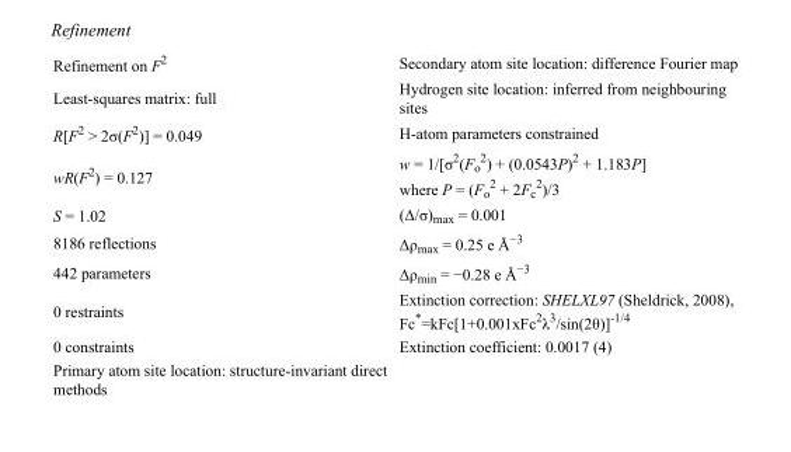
<table><tbody><tr><td>Refinement on F<sup>2</sup></td><td>Secondary atom site location: difference Fourier map</td></tr><tr><td>Least-squares matrix: full</td><td>Hydrogen site location: inferred from neighbouring sites</td></tr><tr><td>R[F<sup>2</sup> &gt; 2σ(F<sup>2</sup>)] = 0.049</td><td>H-atom parameters constrained</td></tr><tr><td>wR(F<sup>2</sup>) = 0.127</td><td>w = 1/[σ<sup>2</sup>(F<sub>o</sub> <sup>2</sup>) + (0.0543P)<sup>2</sup> + 1.183P] where P = (F<sub>o</sub> <sup>2</sup> + 2F<sub>c</sub> <sup>2</sup>)/3</td></tr><tr><td>S = 1.02</td><td>(Δ/σ)<sub>max</sub> = 0.001</td></tr><tr><td>8186 reflections</td><td>Δρ<sub>max</sub> = 0.25 e Å<sup>−3</sup></td></tr><tr><td>442 parameters</td><td>Δρ<sub>min</sub> = −0.28 e Å<sup>−3</sup></td></tr><tr><td>0 restraints</td><td>Extinction correction: SHELXL97 (Sheldrick, 2008), Fc*=kFc[1+0.001xFc<sup>2</sup>λ<sup>3</sup>/sin(2θ)]<sup>-1/4</sup></td></tr><tr><td>0 constraints</td><td>Extinction coefficient: 0.0017 (4)</td></tr><tr><td>Primary atom site location: structure-invariant direct methods</td><td></td></tr></tbody></table>